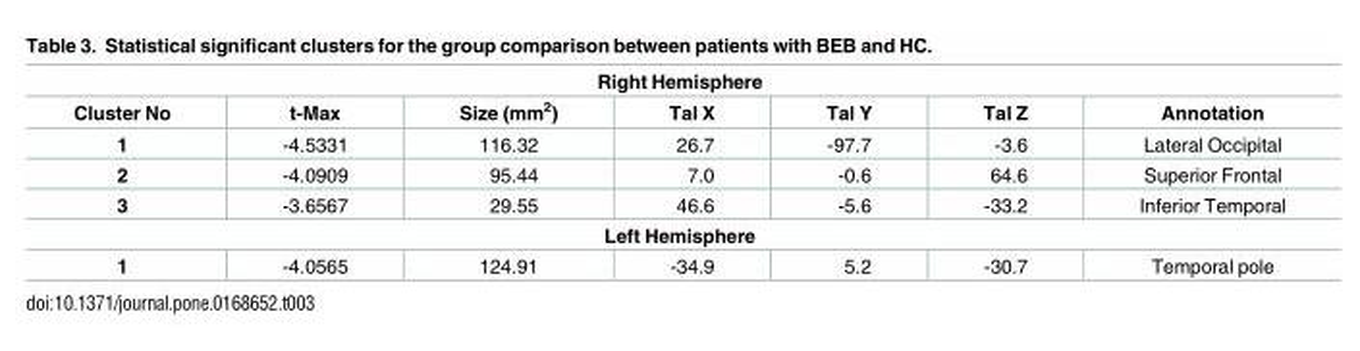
<table><thead><tr><td colspan="7">Right Hemisphere</td></tr><tr><td>Cluster No</td><td>t-Max</td><td>Size (mm<sup>2</sup>)</td><td>Tal X</td><td>Tal Y</td><td>Tal Z</td><td>Annotation</td></tr></thead><tbody><tr><td>1</td><td>-4.5331</td><td>116.32</td><td>26.7</td><td>-97.7</td><td>-3.6</td><td>Lateral Occipital</td></tr><tr><td>2</td><td>-4.0909</td><td>95.44</td><td>7.0</td><td>-0.6</td><td>64.6</td><td>Superior Frontal</td></tr><tr><td>3</td><td>-3.6567</td><td>29.55</td><td>46.6</td><td>-5.6</td><td>-33.2</td><td>Inferior Temporal</td></tr><tr><td colspan="7">Left Hemisphere</td></tr><tr><td>1</td><td>-4.0565</td><td>124.91</td><td>-34.9</td><td>5.2</td><td>-30.7</td><td>Temporal pole</td></tr></tbody></table>